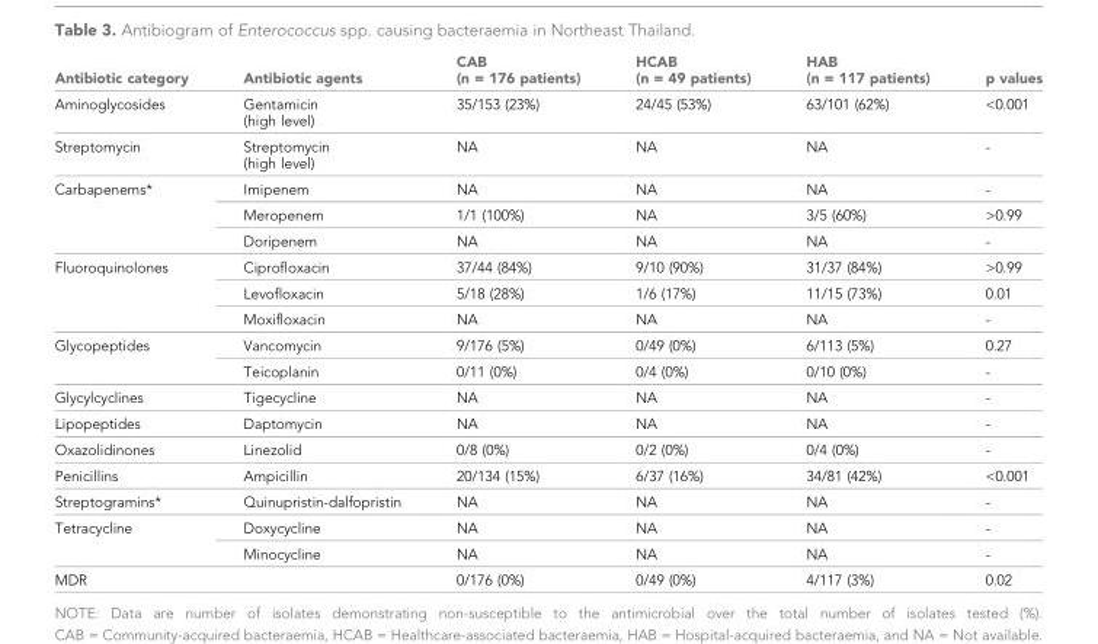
<table><thead><tr><td>Antibiotic category</td><td>Antibiotic agents</td><td>CAB (n = 176 patients)</td><td>HCAB (n = 49 patients)</td><td>HAB (n = 117 patients)</td><td>p values</td></tr></thead><tbody><tr><td>Aminoglycosides</td><td>Gentamicin (high level)</td><td>35/153 (23%)</td><td>24/45 (53%)</td><td>63/101 (62%)</td><td>&lt;0.001</td></tr><tr><td>Streptomycin</td><td>Streptomycin (high level)</td><td>NA</td><td>NA</td><td>NA</td><td>-</td></tr><tr><td rowspan="3">Carbapenems*</td><td>Imipenem</td><td>NA</td><td>NA</td><td>NA</td><td>-</td></tr><tr><td>Meropenem</td><td>1/1 (100%)</td><td>NA</td><td>3/5 (60%)</td><td>&gt;0.99</td></tr><tr><td>Doripenem</td><td>NA</td><td>NA</td><td>NA</td><td>-</td></tr><tr><td rowspan="3">Fluoroquinolones</td><td>Ciprofloxacin</td><td>37/44 (84%)</td><td>9/10 (90%)</td><td>31/37 (84%)</td><td>&gt;0.99</td></tr><tr><td>Levofloxacin</td><td>5/18 (28%)</td><td>1/6 (17%)</td><td>11/15 (73%)</td><td>0.01</td></tr><tr><td>Moxifloxacin</td><td>NA</td><td>NA</td><td>NA</td><td>-</td></tr><tr><td rowspan="2">Glycopeptides</td><td>Vancomycin</td><td>9/176 (5%)</td><td>0/49 (0%)</td><td>6/113 (5%)</td><td>0.27</td></tr><tr><td>Teicoplanin</td><td>0/11 (0%)</td><td>0/4 (0%)</td><td>0/10 (0%)</td><td>-</td></tr><tr><td>Glycylcyclines</td><td>Tigecycline</td><td>NA</td><td>NA</td><td>NA</td><td>-</td></tr><tr><td>Lipopeptides</td><td>Daptomycin</td><td>NA</td><td>NA</td><td>NA</td><td>-</td></tr><tr><td>Oxazolidinones</td><td>Linezolid</td><td>0/8 (0%)</td><td>0/2 (0%)</td><td>0/4 (0%)</td><td>-</td></tr><tr><td>Penicillins</td><td>Ampicillin</td><td>20/134 (15%)</td><td>6/37 (16%)</td><td>34/81 (42%)</td><td>&lt;0.001</td></tr><tr><td>Streptogramins*</td><td>Quinupristin-dalfopristin</td><td>NA</td><td>NA</td><td>NA</td><td>-</td></tr><tr><td rowspan="2">Tetracycline</td><td>Doxycycline</td><td>NA</td><td>NA</td><td>NA</td><td>-</td></tr><tr><td>Minocycline</td><td>NA</td><td>NA</td><td>NA</td><td>-</td></tr><tr><td>MDR</td><td></td><td>0/176 (0%)</td><td>0/49 (0%)</td><td>4/117 (3%)</td><td>0.02</td></tr></tbody></table>